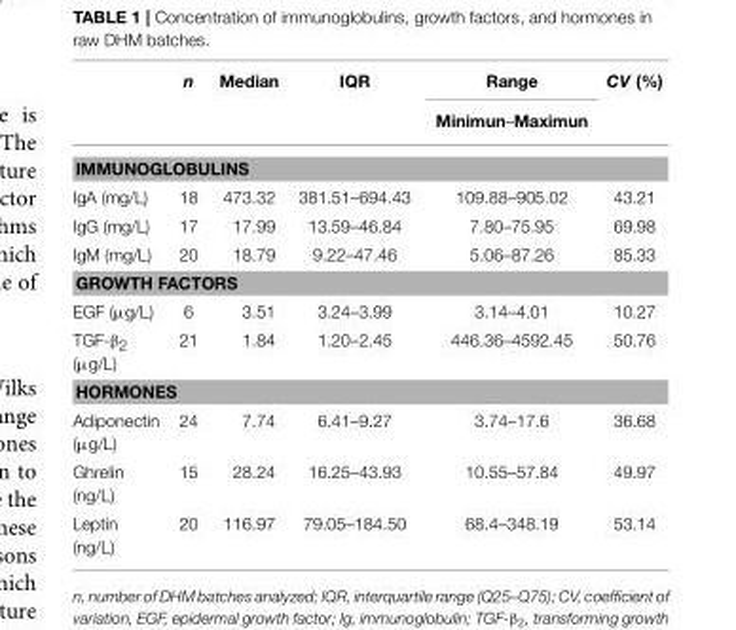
<table><thead><tr><td rowspan="2"></td><td rowspan="2">n</td><td rowspan="2">Median</td><td rowspan="2">IQR</td><td rowspan="2">Range Minimun–Maximun</td><td rowspan="2">CV (%)</td></tr><tr></tr></thead><tbody><tr><td colspan="6">IMMUNOGLOBULINS</td></tr><tr><td>IgA (mg/L)</td><td>18</td><td>473.32</td><td>381.51–694.43</td><td>109.88–905.02</td><td>43.21</td></tr><tr><td>IgG (mg/L)</td><td>17</td><td>17.99</td><td>13.59–46.84</td><td>7.80–75.95</td><td>69.98</td></tr><tr><td>IgM (mg/L)</td><td>20</td><td>18.79</td><td>9.22–47.46</td><td>5.06–87.26</td><td>85.33</td></tr><tr><td colspan="6">GROWTH FACTORS</td></tr><tr><td>EGF (µg/L)</td><td>6</td><td>3.51</td><td>3.24–3.99</td><td>3.14–4.01</td><td>10.27</td></tr><tr><td>TGF-β<sub>2</sub> (µg/L)</td><td>21</td><td>1.84</td><td>1.20–2.45</td><td>446.36–4592.45</td><td>50.76</td></tr><tr><td colspan="6">HORMONES</td></tr><tr><td>Adiponectin (µg/L)</td><td>24</td><td>7.74</td><td>6.41–9.27</td><td>3.74–17.6</td><td>36.68</td></tr><tr><td>Ghrelin (ng/L)</td><td>15</td><td>28.24</td><td>16.25–43.93</td><td>10.55–57.84</td><td>49.97</td></tr><tr><td>Leptin (ng/L)</td><td>20</td><td>116.97</td><td>79.05–184.50</td><td>68.4–348.19</td><td>53.14</td></tr></tbody></table>